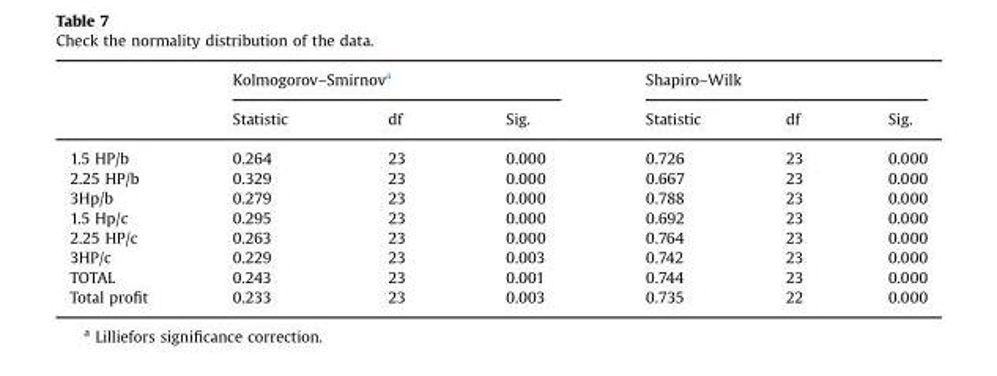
<table><thead><tr><td rowspan="2"></td><td colspan="3">Kolmogorov–Smirnov<sup>a</sup></td><td colspan="3">Shapiro–Wilk</td></tr><tr><td>Statistic</td><td>df</td><td>Sig.</td><td>Statistic</td><td>df</td><td>Sig.</td></tr></thead><tbody><tr><td>1.5 HP/b</td><td>0.264</td><td>23</td><td>0.000</td><td>0.726</td><td>23</td><td>0.000</td></tr><tr><td>2.25 HP/b</td><td>0.329</td><td>23</td><td>0.000</td><td>0.667</td><td>23</td><td>0.000</td></tr><tr><td>3Hp/b</td><td>0.279</td><td>23</td><td>0.000</td><td>0.788</td><td>23</td><td>0.000</td></tr><tr><td>1.5 Hp/c</td><td>0.295</td><td>23</td><td>0.000</td><td>0.692</td><td>23</td><td>0.000</td></tr><tr><td>2.25 HP/c</td><td>0.263</td><td>23</td><td>0.000</td><td>0.764</td><td>23</td><td>0.000</td></tr><tr><td>3HP/c</td><td>0.229</td><td>23</td><td>0.003</td><td>0.742</td><td>23</td><td>0.000</td></tr><tr><td>TOTAL</td><td>0.243</td><td>23</td><td>0.001</td><td>0.744</td><td>23</td><td>0.000</td></tr><tr><td>Total profit</td><td>0.233</td><td>23</td><td>0.003</td><td>0.735</td><td>22</td><td>0.000</td></tr></tbody></table>